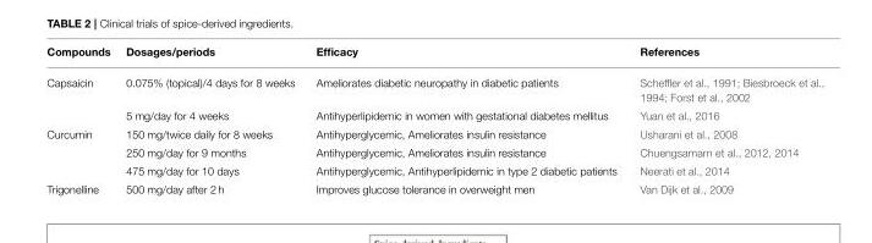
<table><thead><tr><td>Compounds</td><td>Dosages/periods</td><td>Efficacy</td><td>References</td></tr></thead><tbody><tr><td rowspan="2">Capsaicin</td><td>0.075% (topical)/4 days for 8 weeks</td><td>Ameliorates diabetic neuropathy in diabetic patients</td><td>Scheffler et al., 1991; Biesbroeck et al., 1994; Forst et al., 2002</td></tr><tr><td>5 mg/day for 4 weeks</td><td>Antihyperlipidemic in women with gestational diabetes mellitus</td><td>Yuan et al., 2016</td></tr><tr><td rowspan="3">Curcumin</td><td>150 mg/twice daily for 8 weeks</td><td>Antihyperglycemic, Ameliorates insulin resistance</td><td>Usharani et al., 2008</td></tr><tr><td>250 mg/day for 9 months</td><td>Antihyperglycemic, Ameliorates insulin resistance</td><td>Chuengsamarn et al., 2012, 2014</td></tr><tr><td>475 mg/day for 10 days</td><td>Antihyperglycemic, Antihyperlipidemic in type 2 diabetic patients</td><td>Neerati et al., 2014</td></tr><tr><td>Trigonelline</td><td>500 mg/day after 2 h</td><td>Improves glucose tolerance in overweight men</td><td>Van Dijk et al., 2009</td></tr></tbody></table>